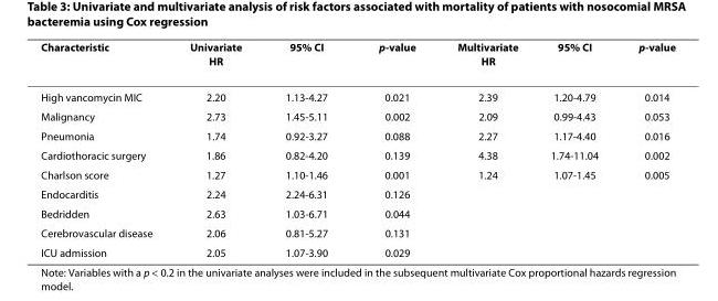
<table><thead><tr><td>Characteristic</td><td>Univariate HR</td><td>95% CI</td><td>p-value</td><td>Multivariate HR</td><td>95% CI</td><td>p-value</td></tr></thead><tbody><tr><td>High vancomycin MIC</td><td>2.20</td><td>1.13-4.27</td><td>0.021</td><td>2.39</td><td>1.20-4.79</td><td>0.014</td></tr><tr><td>Malignancy</td><td>2.73</td><td>1.45-5.11</td><td>0.002</td><td>2.09</td><td>0.99-4.43</td><td>0.053</td></tr><tr><td>Pneumonia</td><td>1.74</td><td>0.92-3.27</td><td>0.088</td><td>2.27</td><td>1.17-4.40</td><td>0.016</td></tr><tr><td>Cardiothoracic surgery</td><td>1.86</td><td>0.82-4.20</td><td>0.139</td><td>4.38</td><td>1.74-11.04</td><td>0.002</td></tr><tr><td>Charlson score</td><td>1.27</td><td>1.10-1.46</td><td>0.001</td><td>1.24</td><td>1.07-1.45</td><td>0.005</td></tr><tr><td>Endocarditis</td><td>2.24</td><td>2.24-6.31</td><td>0.126</td><td></td><td></td><td></td></tr><tr><td>Bedridden</td><td>2.63</td><td>1.03-6.71</td><td>0.044</td><td></td><td></td><td></td></tr><tr><td>Cerebrovascular disease</td><td>2.06</td><td>0.81-5.27</td><td>0.131</td><td></td><td></td><td></td></tr><tr><td>ICU admission</td><td>2.05</td><td>1.07-3.90</td><td>0.029</td><td></td><td></td><td></td></tr></tbody></table>